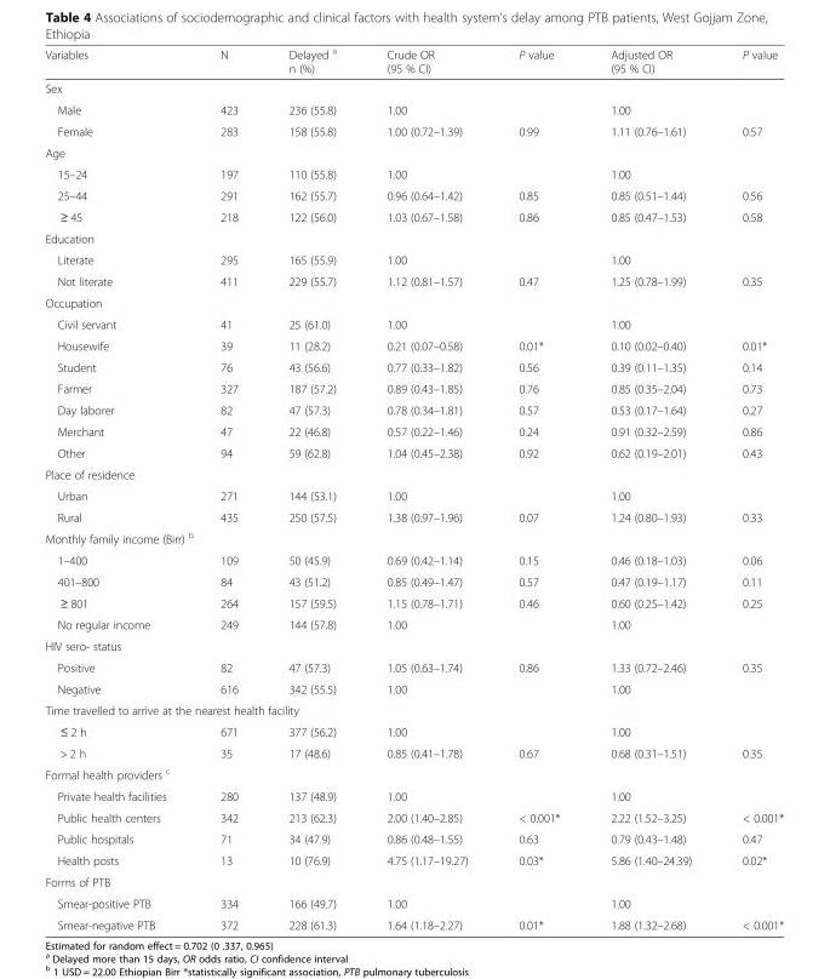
<table><thead><tr><td>Variables</td><td>N</td><td>Delayed <sup>a</sup> n (%)</td><td>Crude OR (95 % CI)</td><td>P value</td><td>Adjusted OR (95 % CI)</td><td>P value</td></tr></thead><tbody><tr><td colspan="7">Sex</td></tr><tr><td>Male</td><td>423</td><td>236 (55.8)</td><td>1.00</td><td></td><td>1.00</td><td></td></tr><tr><td>Female</td><td>283</td><td>158 (55.8)</td><td>1.00 (0.72–1.39)</td><td>0.99</td><td>1.11 (0.76–1.61)</td><td>0.57</td></tr><tr><td colspan="7">Age</td></tr><tr><td>15–24</td><td>197</td><td>110 (55.8)</td><td>1.00</td><td></td><td>1.00</td><td></td></tr><tr><td>25–44</td><td>291</td><td>162 (55.7)</td><td>0.96 (0.64–1.42)</td><td>0.85</td><td>0.85 (0.51–1.44)</td><td>0.56</td></tr><tr><td>≥ 45</td><td>218</td><td>122 (56.0)</td><td>1.03 (0.67–1.58)</td><td>0.86</td><td>0.85 (0.47–1.53)</td><td>0.58</td></tr><tr><td colspan="7">Education</td></tr><tr><td>Literate</td><td>295</td><td>165 (55.9)</td><td>1.00</td><td></td><td>1.00</td><td></td></tr><tr><td>Not literate</td><td>411</td><td>229 (55.7)</td><td>1.12 (0.81–1.57)</td><td>0.47</td><td>1.25 (0.78–1.99)</td><td>0.35</td></tr><tr><td colspan="7">Occupation</td></tr><tr><td>Civil servant</td><td>41</td><td>25 (61.0)</td><td>1.00</td><td></td><td>1.00</td><td></td></tr><tr><td>Housewife</td><td>39</td><td>11 (28.2)</td><td>0.21 (0.07–0.58)</td><td>0.01*</td><td>0.10 (0.02–0.40)</td><td>0.01*</td></tr><tr><td>Student</td><td>76</td><td>43 (56.6)</td><td>0.77 (0.33–1.82)</td><td>0.56</td><td>0.39 (0.11–1.35)</td><td>0.14</td></tr><tr><td>Farmer</td><td>327</td><td>187 (57.2)</td><td>0.89 (0.43–1.85)</td><td>0.76</td><td>0.85 (0.35–2.04)</td><td>0.73</td></tr><tr><td>Day laborer</td><td>82</td><td>47 (57.3)</td><td>0.78 (0.34–1.81)</td><td>0.57</td><td>0.53 (0.17–1.64)</td><td>0.27</td></tr><tr><td>Merchant</td><td>47</td><td>22 (46.8)</td><td>0.57 (0.22–1.46)</td><td>0.24</td><td>0.91 (0.32–2.59)</td><td>0.86</td></tr><tr><td>Other</td><td>94</td><td>59 (62.8)</td><td>1.04 (0.45–2.38)</td><td>0.92</td><td>0.62 (0.19–2.01)</td><td>0.43</td></tr><tr><td colspan="7">Place of residence</td></tr><tr><td>Urban</td><td>271</td><td>144 (53.1)</td><td>1.00</td><td></td><td>1.00</td><td></td></tr><tr><td>Rural</td><td>435</td><td>250 (57.5)</td><td>1.38 (0.97–1.96)</td><td>0.07</td><td>1.24 (0.80–1.93)</td><td>0.33</td></tr><tr><td colspan="7">Monthly family income (Birr) <sup>b</sup></td></tr><tr><td>1–400</td><td>109</td><td>50 (45.9)</td><td>0.69 (0.42–1.14)</td><td>0.15</td><td>0.46 (0.18–1.03)</td><td>0.06</td></tr><tr><td>401–800</td><td>84</td><td>43 (51.2)</td><td>0.85 (0.49–1.47)</td><td>0.57</td><td>0.47 (0.19–1.17)</td><td>0.11</td></tr><tr><td>≥ 801</td><td>264</td><td>157 (59.5)</td><td>1.15 (0.78–1.71)</td><td>0.46</td><td>0.60 (0.25–1.42)</td><td>0.25</td></tr><tr><td>No regular income</td><td>249</td><td>144 (57.8)</td><td>1.00</td><td></td><td>1.00</td><td></td></tr><tr><td colspan="7">HIV sero- status</td></tr><tr><td>Positive</td><td>82</td><td>47 (57.3)</td><td>1.05 (0.63–1.74)</td><td>0.86</td><td>1.33 (0.72–2.46)</td><td>0.35</td></tr><tr><td>Negative</td><td>616</td><td>342 (55.5)</td><td>1.00</td><td></td><td>1.00</td><td></td></tr><tr><td colspan="7">Time travelled to arrive at the nearest health facility</td></tr><tr><td>≤ 2 h</td><td>671</td><td>377 (56.2)</td><td>1.00</td><td></td><td>1.00</td><td></td></tr><tr><td>&gt; 2 h</td><td>35</td><td>17 (48.6)</td><td>0.85 (0.41–1.78)</td><td>0.67</td><td>0.68 (0.31–1.51)</td><td>0.35</td></tr><tr><td colspan="7">Formal health providers <sup>c</sup></td></tr><tr><td>Private health facilities</td><td>280</td><td>137 (48.9)</td><td>1.00</td><td></td><td>1.00</td><td></td></tr><tr><td>Public health centers</td><td>342</td><td>213 (62.3)</td><td>2.00 (1.40–2.85)</td><td>&lt; 0.001*</td><td>2.22 (1.52–3.25)</td><td>&lt; 0.001*</td></tr><tr><td>Public hospitals</td><td>71</td><td>34 (47.9)</td><td>0.86 (0.48–1.55)</td><td>0.63</td><td>0.79 (0.43–1.48)</td><td>0.47</td></tr><tr><td>Health posts</td><td>13</td><td>10 (76.9)</td><td>4.75 (1.17–19.27)</td><td>0.03*</td><td>5.86 (1.40–24.39)</td><td>0.02*</td></tr><tr><td colspan="7">Forms of PTB</td></tr><tr><td>Smear-positive PTB</td><td>334</td><td>166 (49.7)</td><td>1.00</td><td></td><td>1.00</td><td></td></tr><tr><td>Smear-negative PTB</td><td>372</td><td>228 (61.3)</td><td>1.64 (1.18–2.27)</td><td>0.01*</td><td>1.88 (1.32–2.68)</td><td>&lt; 0.001*</td></tr></tbody></table>